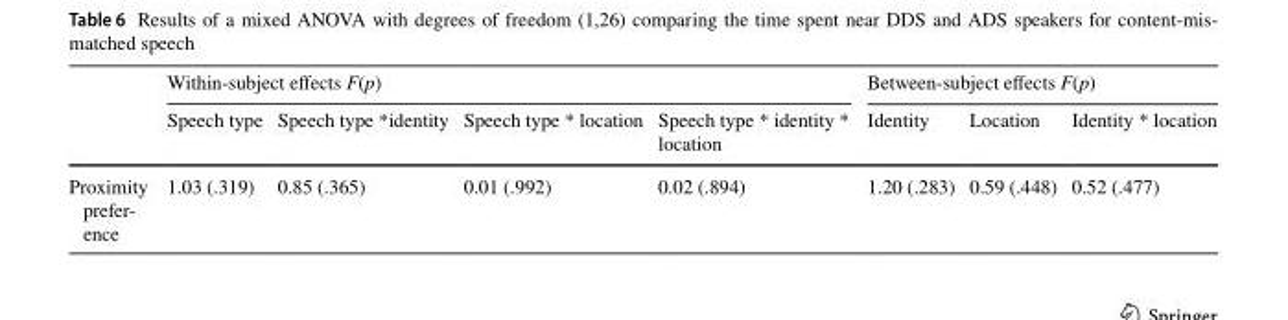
<table><thead><tr><td rowspan="2"></td><td colspan="4">Within-subject effects F(p)</td><td colspan="3">Between-subject effects F(p)</td></tr><tr><td>Speech type</td><td>Speech type *identity</td><td>Speech type * location</td><td>Speech type * identity * location</td><td>Identity</td><td>Location</td><td>Identity * location</td></tr></thead><tbody><tr><td>Proximity prefer- ence</td><td>1.03 (.319)</td><td>0.85 (.365)</td><td>0.01 (.992)</td><td>0.02 (.894)</td><td>1.20 (.283)</td><td>0.59 (.448)</td><td>0.52 (.477)</td></tr></tbody></table>